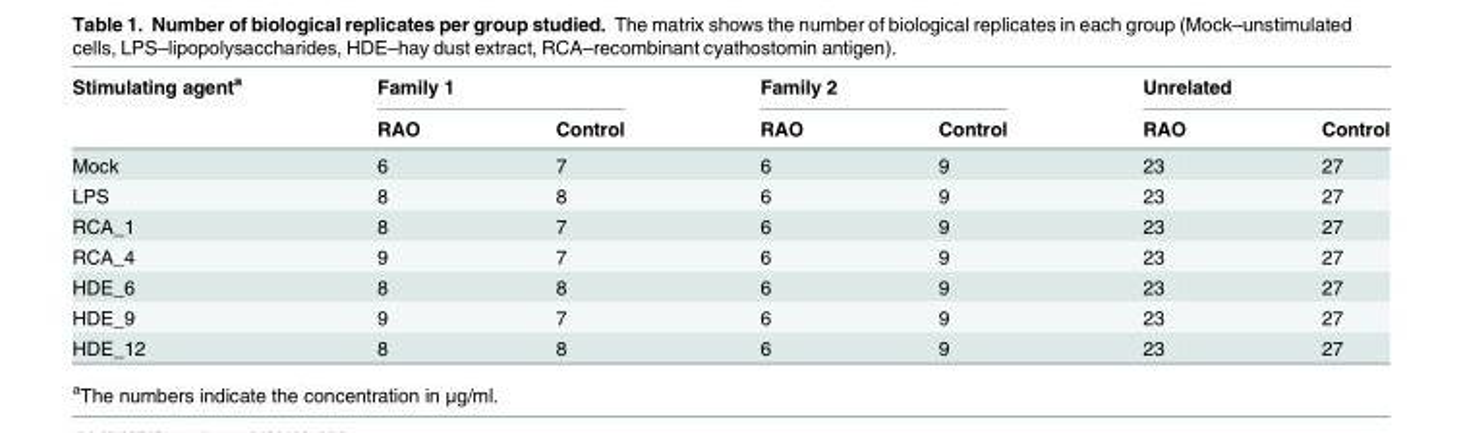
<table><thead><tr><td rowspan="2">Stimulating agent<sup>a</sup></td><td colspan="2">Family 1</td><td colspan="2">Family 2</td><td colspan="2">Unrelated</td></tr><tr><td>RAO</td><td>Control</td><td>RAO</td><td>Control</td><td>RAO</td><td>Control</td></tr></thead><tbody><tr><td>Mock</td><td>6</td><td>7</td><td>6</td><td>9</td><td>23</td><td>27</td></tr><tr><td>LPS</td><td>8</td><td>8</td><td>6</td><td>9</td><td>23</td><td>27</td></tr><tr><td>RCA_1</td><td>8</td><td>7</td><td>6</td><td>9</td><td>23</td><td>27</td></tr><tr><td>RCA_4</td><td>9</td><td>7</td><td>6</td><td>9</td><td>23</td><td>27</td></tr><tr><td>HDE_6</td><td>8</td><td>8</td><td>6</td><td>9</td><td>23</td><td>27</td></tr><tr><td>HDE_9</td><td>9</td><td>7</td><td>6</td><td>9</td><td>23</td><td>27</td></tr><tr><td>HDE_12</td><td>8</td><td>8</td><td>6</td><td>9</td><td>23</td><td>27</td></tr></tbody></table>